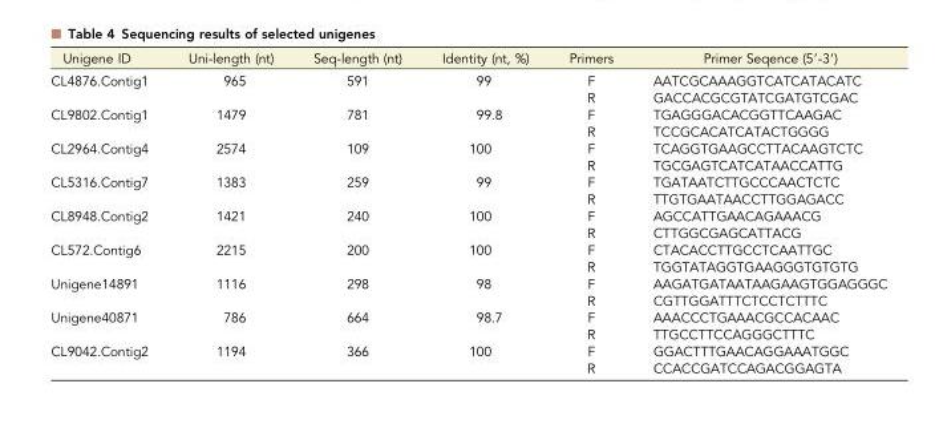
<table><thead><tr><td>Unigene ID</td><td>Uni-length (nt)</td><td>Seq-length (nt)</td><td>Identity (nt, %)</td><td>Primers</td><td>Primer Seqence (5′-3′)</td></tr></thead><tbody><tr><td rowspan="2">CL4876.Contig1</td><td>965</td><td>591</td><td>99</td><td>F</td><td>AATCGCAAAGGTCATCATACATC</td></tr><tr><td></td><td></td><td></td><td>R</td><td>GACCACGCGTATCGATGTCGAC</td></tr><tr><td rowspan="2">CL9802.Contig1</td><td>1479</td><td>781</td><td>99.8</td><td>F</td><td>TGAGGGACACGGTTCAAGAC</td></tr><tr><td></td><td></td><td></td><td>R</td><td>TCCGCACATCATACTGGGG</td></tr><tr><td rowspan="2">CL2964.Contig4</td><td>2574</td><td>109</td><td>100</td><td>F</td><td>TCAGGTGAAGCCTTACAAGTCTC</td></tr><tr><td></td><td></td><td></td><td>R</td><td>TGCGAGTCATCATAACCATTG</td></tr><tr><td rowspan="2">CL5316.Contig7</td><td>1383</td><td>259</td><td>99</td><td>F</td><td>TGATAATCTTGCCCAACTCTC</td></tr><tr><td></td><td></td><td></td><td>R</td><td>TTGTGAATAACCTTGGAGACC</td></tr><tr><td rowspan="2">CL8948.Contig2</td><td>1421</td><td>240</td><td>100</td><td>F</td><td>AGCCATTGAACAGAAACG</td></tr><tr><td></td><td></td><td></td><td>R</td><td>CTTGGCGAGCATTACG</td></tr><tr><td rowspan="2">CL572.Contig6</td><td>2215</td><td>200</td><td>100</td><td>F</td><td>CTACACCTTGCCTCAATTGC</td></tr><tr><td></td><td></td><td></td><td>R</td><td>TGGTATAGGTGAAGGGTGTGTG</td></tr><tr><td rowspan="2">Unigene14891</td><td>1116</td><td>298</td><td>98</td><td>F</td><td>AAGATGATAATAAGAAGTGGAGGGC</td></tr><tr><td></td><td></td><td></td><td>R</td><td>CGTTGGATTTCTCCTCTTTC</td></tr><tr><td rowspan="2">Unigene40871</td><td>786</td><td>664</td><td>98.7</td><td>F</td><td>AAACCCTGAAACGCCACAAC</td></tr><tr><td></td><td></td><td></td><td>R</td><td>TTGCCTTCCAGGGCTTTC</td></tr><tr><td rowspan="2">CL9042.Contig2</td><td>1194</td><td>366</td><td>100</td><td>F</td><td>GGACTTTGAACAGGAAATGGC</td></tr><tr><td></td><td></td><td></td><td>R</td><td>CCACCGATCCAGACGGAGTA</td></tr></tbody></table>